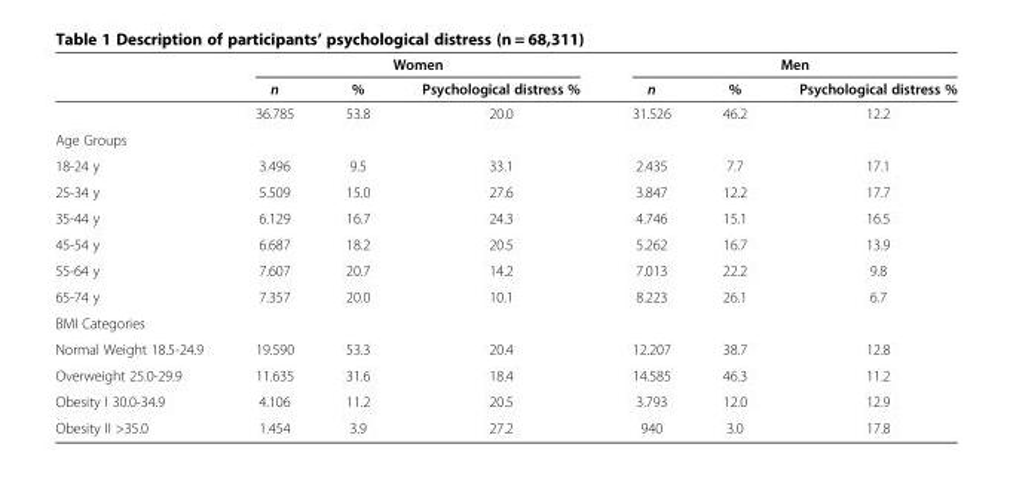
<table><thead><tr><td rowspan="2"></td><td colspan="3">Women</td><td colspan="3">Men</td></tr><tr><td>n</td><td>%</td><td>Psychological distress %</td><td>n</td><td>%</td><td>Psychological distress %</td></tr></thead><tbody><tr><td></td><td>36.785</td><td>53.8</td><td>20.0</td><td>31.526</td><td>46.2</td><td>12.2</td></tr><tr><td colspan="7">Age Groups</td></tr><tr><td>18-24 y</td><td>3.496</td><td>9.5</td><td>33.1</td><td>2.435</td><td>7.7</td><td>17.1</td></tr><tr><td>25-34 y</td><td>5.509</td><td>15.0</td><td>27.6</td><td>3.847</td><td>12.2</td><td>17.7</td></tr><tr><td>35-44 y</td><td>6.129</td><td>16.7</td><td>24.3</td><td>4.746</td><td>15.1</td><td>16.5</td></tr><tr><td>45-54 y</td><td>6.687</td><td>18.2</td><td>20.5</td><td>5.262</td><td>16.7</td><td>13.9</td></tr><tr><td>55-64 y</td><td>7.607</td><td>20.7</td><td>14.2</td><td>7.013</td><td>22.2</td><td>9.8</td></tr><tr><td>65-74 y</td><td>7.357</td><td>20.0</td><td>10.1</td><td>8.223</td><td>26.1</td><td>6.7</td></tr><tr><td colspan="7">BMI Categories</td></tr><tr><td>Normal Weight 18.5-24.9</td><td>19.590</td><td>53.3</td><td>20.4</td><td>12.207</td><td>38.7</td><td>12.8</td></tr><tr><td>Overweight 25.0-29.9</td><td>11.635</td><td>31.6</td><td>18.4</td><td>14.585</td><td>46.3</td><td>11.2</td></tr><tr><td>Obesity I 30.0-34.9</td><td>4.106</td><td>11.2</td><td>20.5</td><td>3.793</td><td>12.0</td><td>12.9</td></tr><tr><td>Obesity II &gt;35.0</td><td>1.454</td><td>3.9</td><td>27.2</td><td>940</td><td>3.0</td><td>17.8</td></tr></tbody></table>